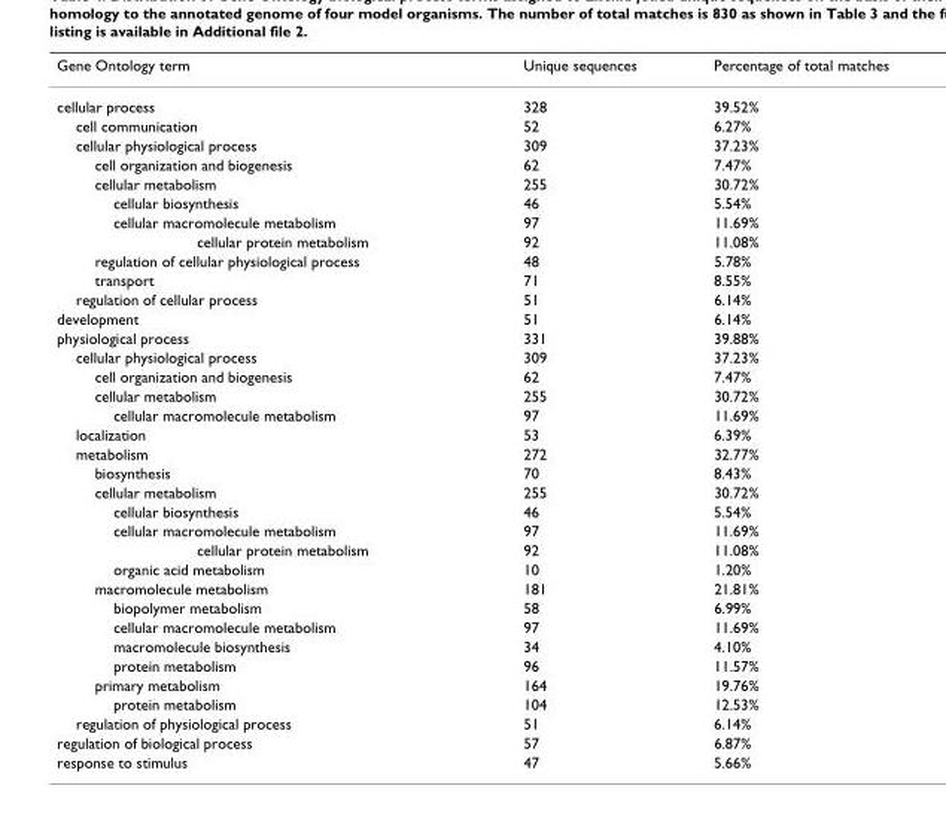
<table><thead><tr><td>Gene Ontology term</td><td>Unique sequences</td><td>Percentage of total matches</td></tr></thead><tbody><tr><td>cellular process</td><td>328</td><td>39.52%</td></tr><tr><td>cell communication</td><td>52</td><td>6.27%</td></tr><tr><td>cellular physiological process</td><td>309</td><td>37.23%</td></tr><tr><td>cell organization and biogenesis</td><td>62</td><td>7.47%</td></tr><tr><td>cellular metabolism</td><td>255</td><td>30.72%</td></tr><tr><td>cellular biosynthesis</td><td>46</td><td>5.54%</td></tr><tr><td>cellular macromolecule metabolism</td><td>97</td><td>11.69%</td></tr><tr><td>cellular protein metabolism</td><td>92</td><td>11.08%</td></tr><tr><td>regulation of cellular physiological process</td><td>48</td><td>5.78%</td></tr><tr><td>transport</td><td>71</td><td>8.55%</td></tr><tr><td>regulation of cellular process</td><td>51</td><td>6.14%</td></tr><tr><td>development</td><td>51</td><td>6.14%</td></tr><tr><td>physiological process</td><td>331</td><td>39.88%</td></tr><tr><td>cellular physiological process</td><td>309</td><td>37.23%</td></tr><tr><td>cell organization and biogenesis</td><td>62</td><td>7.47%</td></tr><tr><td>cellular metabolism</td><td>255</td><td>30.72%</td></tr><tr><td>cellular macromolecule metabolism</td><td>97</td><td>11.69%</td></tr><tr><td>localization</td><td>53</td><td>6.39%</td></tr><tr><td>metabolism</td><td>272</td><td>32.77%</td></tr><tr><td>biosynthesis</td><td>70</td><td>8.43%</td></tr><tr><td>cellular metabolism</td><td>255</td><td>30.72%</td></tr><tr><td>cellular biosynthesis</td><td>46</td><td>5.54%</td></tr><tr><td>cellular macromolecule metabolism</td><td>97</td><td>11.69%</td></tr><tr><td>cellular protein metabolism</td><td>92</td><td>11.08%</td></tr><tr><td>organic acid metabolism</td><td>10</td><td>1.20%</td></tr><tr><td>macromolecule metabolism</td><td>181</td><td>21.81%</td></tr><tr><td>biopolymer metabolism</td><td>58</td><td>6.99%</td></tr><tr><td>cellular macromolecule metabolism</td><td>97</td><td>11.69%</td></tr><tr><td>macromolecule biosynthesis</td><td>34</td><td>4.10%</td></tr><tr><td>protein metabolism</td><td>96</td><td>11.57%</td></tr><tr><td>primary metabolism</td><td>164</td><td>19.76%</td></tr><tr><td>protein metabolism</td><td>104</td><td>12.53%</td></tr><tr><td>regulation of physiological process</td><td>51</td><td>6.14%</td></tr><tr><td>regulation of biological process</td><td>57</td><td>6.87%</td></tr><tr><td>response to stimulus</td><td>47</td><td>5.66%</td></tr></tbody></table>